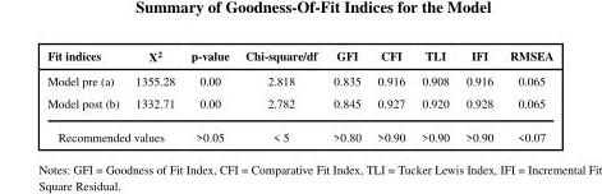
<table><thead><tr><td>Fit indices</td><td>X<sup>2</sup></td><td>p-value</td><td>Chi-square/df</td><td>GFI</td><td>CFI</td><td>TLI</td><td>IFI</td><td>RMSEA</td></tr></thead><tbody><tr><td>Model pre (a)</td><td>1355.28</td><td>0.00</td><td>2.818</td><td>0.835</td><td>0.916</td><td>0.908</td><td>0.916</td><td>0.065</td></tr><tr><td>Model post (b)</td><td>1332.71</td><td>0.00</td><td>2.782</td><td>0.845</td><td>0.927</td><td>0.920</td><td>0.928</td><td>0.065</td></tr><tr><td colspan="2">Recommended values</td><td>&gt;0.05</td><td>&lt; 5</td><td>&gt;0.80</td><td>&gt;0.90</td><td>&gt;0.90</td><td>&gt;0.90</td><td>&lt;0.07</td></tr></tbody></table>